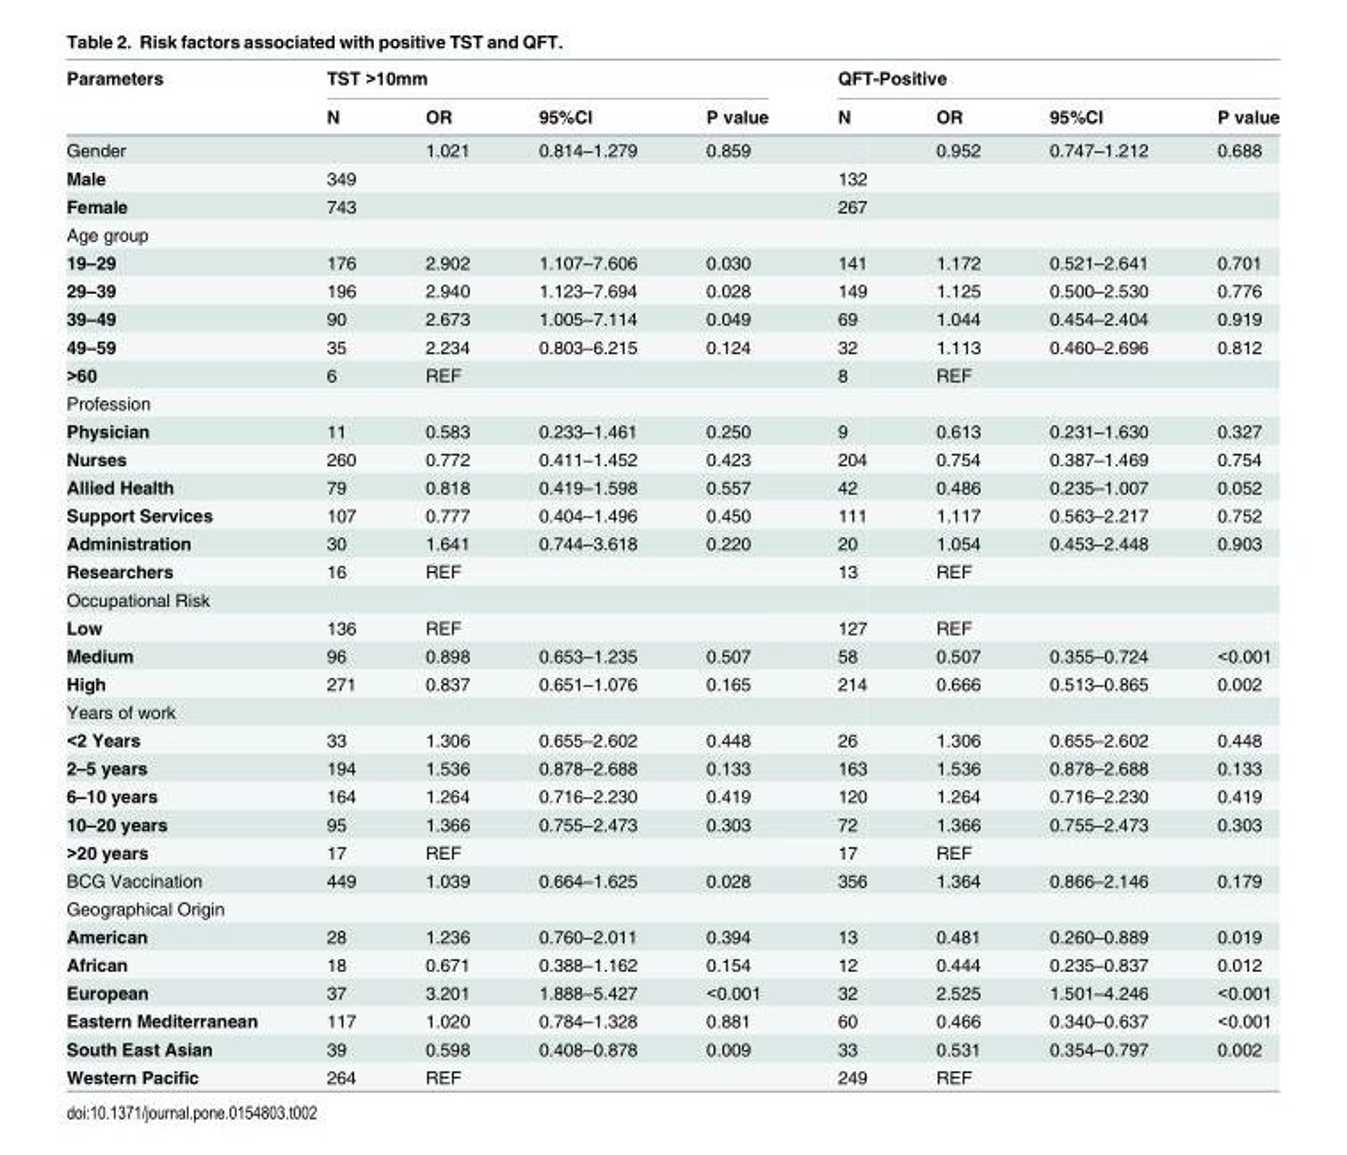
<table><thead><tr><td rowspan="2">Parameters</td><td colspan="4">TST &gt;10mm</td><td colspan="4">QFT-Positive</td></tr><tr><td>N</td><td>OR</td><td>95%CI</td><td>P value</td><td>N</td><td>OR</td><td>95%CI</td><td>P value</td></tr></thead><tbody><tr><td>Gender</td><td></td><td>1.021</td><td>0.814–1.279</td><td>0.859</td><td></td><td>0.952</td><td>0.747–1.212</td><td>0.688</td></tr><tr><td>Male</td><td>349</td><td></td><td></td><td></td><td>132</td><td></td><td></td><td></td></tr><tr><td>Female</td><td>743</td><td></td><td></td><td></td><td>267</td><td></td><td></td><td></td></tr><tr><td colspan="9">Age group</td></tr><tr><td>19–29</td><td>176</td><td>2.902</td><td>1.107–7.606</td><td>0.030</td><td>141</td><td>1.172</td><td>0.521–2.641</td><td>0.701</td></tr><tr><td>29–39</td><td>196</td><td>2.940</td><td>1.123–7.694</td><td>0.028</td><td>149</td><td>1.125</td><td>0.500–2.530</td><td>0.776</td></tr><tr><td>39–49</td><td>90</td><td>2.673</td><td>1.005–7.114</td><td>0.049</td><td>69</td><td>1.044</td><td>0.454–2.404</td><td>0.919</td></tr><tr><td>49–59</td><td>35</td><td>2.234</td><td>0.803–6.215</td><td>0.124</td><td>32</td><td>1.113</td><td>0.460–2.696</td><td>0.812</td></tr><tr><td>&gt;60</td><td>6</td><td>REF</td><td></td><td></td><td>8</td><td>REF</td><td></td><td></td></tr><tr><td colspan="9">Profession</td></tr><tr><td>Physician</td><td>11</td><td>0.583</td><td>0.233–1.461</td><td>0.250</td><td>9</td><td>0.613</td><td>0.231–1.630</td><td>0.327</td></tr><tr><td>Nurses</td><td>260</td><td>0.772</td><td>0.411–1.452</td><td>0.423</td><td>204</td><td>0.754</td><td>0.387–1.469</td><td>0.754</td></tr><tr><td>Allied Health</td><td>79</td><td>0.818</td><td>0.419–1.598</td><td>0.557</td><td>42</td><td>0.486</td><td>0.235–1.007</td><td>0.052</td></tr><tr><td>Support Services</td><td>107</td><td>0.777</td><td>0.404–1.496</td><td>0.450</td><td>111</td><td>1.117</td><td>0.563–2.217</td><td>0.752</td></tr><tr><td>Administration</td><td>30</td><td>1.641</td><td>0.744–3.618</td><td>0.220</td><td>20</td><td>1.054</td><td>0.453–2.448</td><td>0.903</td></tr><tr><td>Researchers</td><td>16</td><td>REF</td><td></td><td></td><td>13</td><td>REF</td><td></td><td></td></tr><tr><td colspan="9">Occupational Risk</td></tr><tr><td>Low</td><td>136</td><td>REF</td><td></td><td></td><td>127</td><td>REF</td><td></td><td></td></tr><tr><td>Medium</td><td>96</td><td>0.898</td><td>0.653–1.235</td><td>0.507</td><td>58</td><td>0.507</td><td>0.355–0.724</td><td>&lt;0.001</td></tr><tr><td>High</td><td>271</td><td>0.837</td><td>0.651–1.076</td><td>0.165</td><td>214</td><td>0.666</td><td>0.513–0.865</td><td>0.002</td></tr><tr><td colspan="9">Years of work</td></tr><tr><td>&lt;2 Years</td><td>33</td><td>1.306</td><td>0.655–2.602</td><td>0.448</td><td>26</td><td>1.306</td><td>0.655–2.602</td><td>0.448</td></tr><tr><td>2–5 years</td><td>194</td><td>1.536</td><td>0.878–2.688</td><td>0.133</td><td>163</td><td>1.536</td><td>0.878–2.688</td><td>0.133</td></tr><tr><td>6–10 years</td><td>164</td><td>1.264</td><td>0.716–2.230</td><td>0.419</td><td>120</td><td>1.264</td><td>0.716–2.230</td><td>0.419</td></tr><tr><td>10–20 years</td><td>95</td><td>1.366</td><td>0.755–2.473</td><td>0.303</td><td>72</td><td>1.366</td><td>0.755–2.473</td><td>0.303</td></tr><tr><td>&gt;20 years</td><td>17</td><td>REF</td><td></td><td></td><td>17</td><td>REF</td><td></td><td></td></tr><tr><td>BCG Vaccination</td><td>449</td><td>1.039</td><td>0.664–1.625</td><td>0.028</td><td>356</td><td>1.364</td><td>0.866–2.146</td><td>0.179</td></tr><tr><td colspan="9">Geographical Origin</td></tr><tr><td>American</td><td>28</td><td>1.236</td><td>0.760–2.011</td><td>0.394</td><td>13</td><td>0.481</td><td>0.260–0.889</td><td>0.019</td></tr><tr><td>African</td><td>18</td><td>0.671</td><td>0.388–1.162</td><td>0.154</td><td>12</td><td>0.444</td><td>0.235–0.837</td><td>0.012</td></tr><tr><td>European</td><td>37</td><td>3.201</td><td>1.888–5.427</td><td>&lt;0.001</td><td>32</td><td>2.525</td><td>1.501–4.246</td><td>&lt;0.001</td></tr><tr><td>Eastern Mediterranean</td><td>117</td><td>1.020</td><td>0.784–1.328</td><td>0.881</td><td>60</td><td>0.466</td><td>0.340–0.637</td><td>&lt;0.001</td></tr><tr><td>South East Asian</td><td>39</td><td>0.598</td><td>0.408–0.878</td><td>0.009</td><td>33</td><td>0.531</td><td>0.354–0.797</td><td>0.002</td></tr><tr><td>Western Pacific</td><td>264</td><td>REF</td><td></td><td></td><td>249</td><td>REF</td><td></td><td></td></tr></tbody></table>